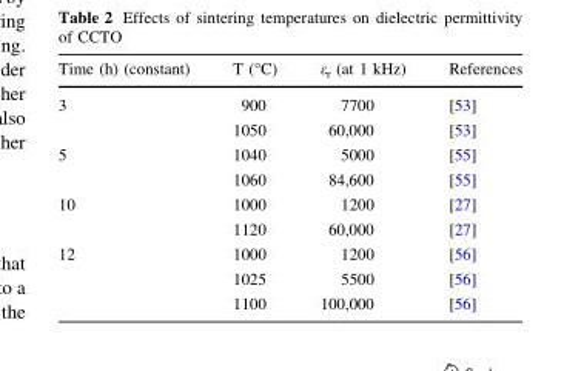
<table><thead><tr><td>Time (h) (constant)</td><td>T (°C)</td><td>er (at 1 kHz)</td><td>References</td></tr></thead><tbody><tr><td rowspan="2">3</td><td>900</td><td>7700</td><td>[53]</td></tr><tr><td>1050</td><td>60,000</td><td>[53]</td></tr><tr><td rowspan="2">5</td><td>1040</td><td>5000</td><td>[55]</td></tr><tr><td>1060</td><td>84,600</td><td>[55]</td></tr><tr><td rowspan="2">10</td><td>1000</td><td>1200</td><td>[27]</td></tr><tr><td>1120</td><td>60,000</td><td>[27]</td></tr><tr><td rowspan="3">12</td><td>1000</td><td>1200</td><td>[56]</td></tr><tr><td>1025</td><td>5500</td><td>[56]</td></tr><tr><td>1100</td><td>100,000</td><td>[56]</td></tr></tbody></table>